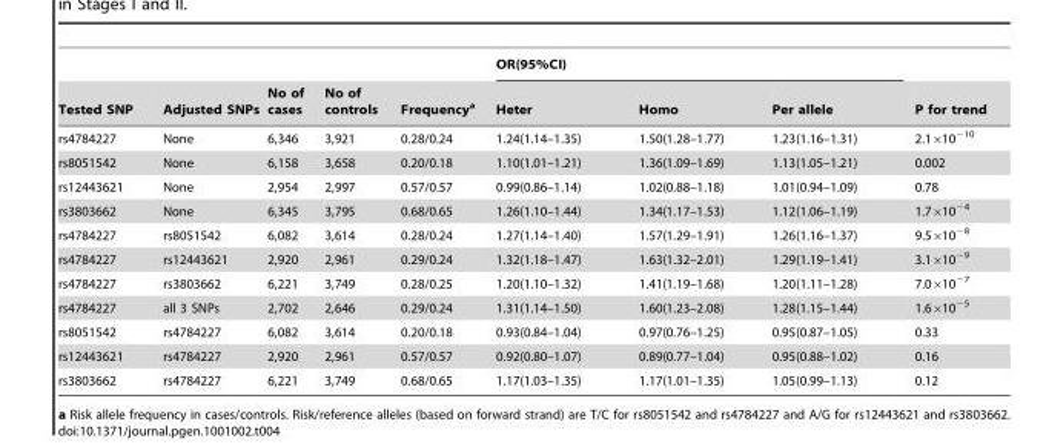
<table><thead><tr><td rowspan="2">Tested SNP</td><td rowspan="2">Adjusted SNPs</td><td rowspan="2">No of cases</td><td rowspan="2">No of controls</td><td rowspan="2">Frequency<sup>a</sup></td><td colspan="3">OR(95%CI)</td><td rowspan="2">P for trend</td></tr><tr><td>Heter</td><td>Homo</td><td>Per allele</td></tr></thead><tbody><tr><td>rs4784227</td><td>None</td><td>6,346</td><td>3,921</td><td>0.28/0.24</td><td>1.24(1.14–1.35)</td><td>1.50(1.28–1.77)</td><td>1.23(1.16–1.31)</td><td>2.1×10<sup>−10</sup></td></tr><tr><td>rs8051542</td><td>None</td><td>6,158</td><td>3,658</td><td>0.20/0.18</td><td>1.10(1.01–1.21)</td><td>1.36(1.09–1.69)</td><td>1.13(1.05–1.21)</td><td>0.002</td></tr><tr><td>rs12443621</td><td>None</td><td>2,954</td><td>2,997</td><td>0.57/0.57</td><td>0.99(0.86–1.14)</td><td>1.02(0.88–1.18)</td><td>1.01(0.94–1.09)</td><td>0.78</td></tr><tr><td>rs3803662</td><td>None</td><td>6,345</td><td>3,795</td><td>0.68/0.65</td><td>1.26(1.10–1.44)</td><td>1.34(1.17–1.53)</td><td>1.12(1.06–1.19)</td><td>1.7×10<sup>−4</sup></td></tr><tr><td>rs4784227</td><td>rs8051542</td><td>6,082</td><td>3,614</td><td>0.28/0.24</td><td>1.27(1.14–1.40)</td><td>1.57(1.29–1.91)</td><td>1.26(1.16–1.37)</td><td>9.5×10<sup>−8</sup></td></tr><tr><td>rs4784227</td><td>rs12443621</td><td>2,920</td><td>2,961</td><td>0.29/0.24</td><td>1.32(1.18–1.47)</td><td>1.63(1.32–2.01)</td><td>1.29(1.19–1.41)</td><td>3.1×10<sup>−9</sup></td></tr><tr><td>rs4784227</td><td>rs3803662</td><td>6,221</td><td>3,749</td><td>0.28/0.25</td><td>1.20(1.10–1.32)</td><td>1.41(1.19–1.68)</td><td>1.20(1.11–1.28)</td><td>7.0×10<sup>−7</sup></td></tr><tr><td>rs4784227</td><td>all 3 SNPs</td><td>2,702</td><td>2,646</td><td>0.29/0.24</td><td>1.31(1.14–1.50)</td><td>1.60(1.23–2.08)</td><td>1.28(1.15–1.44)</td><td>1.6×10<sup>−5</sup></td></tr><tr><td>rs8051542</td><td>rs4784227</td><td>6,082</td><td>3,614</td><td>0.20/0.18</td><td>0.93(0.84–1.04)</td><td>0.97(0.76–1.25)</td><td>0.95(0.87–1.05)</td><td>0.33</td></tr><tr><td>rs12443621</td><td>rs4784227</td><td>2,920</td><td>2,961</td><td>0.57/0.57</td><td>0.92(0.80–1.07)</td><td>0.89(0.77–1.04)</td><td>0.95(0.88–1.02)</td><td>0.16</td></tr><tr><td>rs3803662</td><td>rs4784227</td><td>6,221</td><td>3,749</td><td>0.68/0.65</td><td>1.17(1.03–1.35)</td><td>1.17(1.01–1.35)</td><td>1.05(0.99–1.13)</td><td>0.12</td></tr></tbody></table>